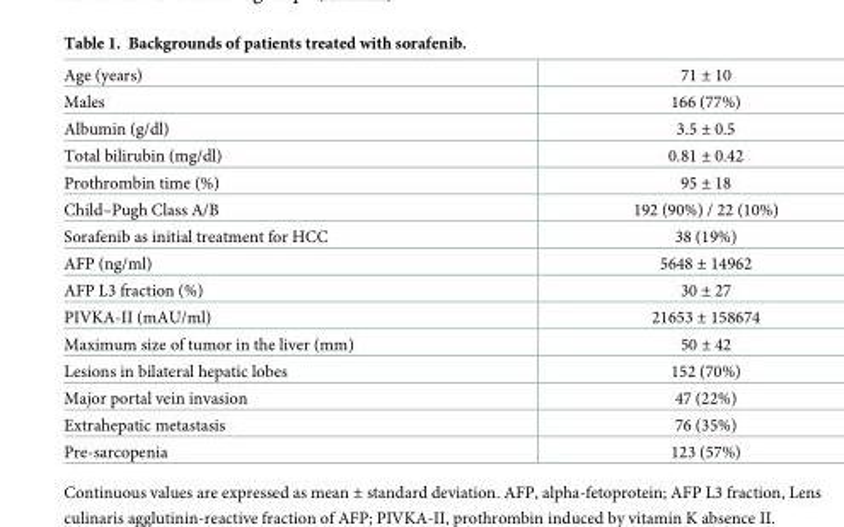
<table><tbody><tr><td>Age (years)</td><td>71 ± 10</td></tr><tr><td>Males</td><td>166 (77%)</td></tr><tr><td>Albumin (g/dl)</td><td>3.5 ± 0.5</td></tr><tr><td>Total bilirubin (mg/dl)</td><td>0.81 ± 0.42</td></tr><tr><td>Prothrombin time (%)</td><td>95 ± 18</td></tr><tr><td>Child–Pugh Class A/B</td><td>192 (90%) / 22 (10%)</td></tr><tr><td>Sorafenib as initial treatment for HCC</td><td>38 (19%)</td></tr><tr><td>AFP (ng/ml)</td><td>5648 ± 14962</td></tr><tr><td>AFP L3 fraction (%)</td><td>30 ± 27</td></tr><tr><td>PIVKA-II (mAU/ml)</td><td>21653 ± 158674</td></tr><tr><td>Maximum size of tumor in the liver (mm)</td><td>50 ± 42</td></tr><tr><td>Lesions in bilateral hepatic lobes</td><td>152 (70%)</td></tr><tr><td>Major portal vein invasion</td><td>47 (22%)</td></tr><tr><td>Extrahepatic metastasis</td><td>76 (35%)</td></tr><tr><td>Pre-sarcopenia</td><td>123 (57%)</td></tr></tbody></table>